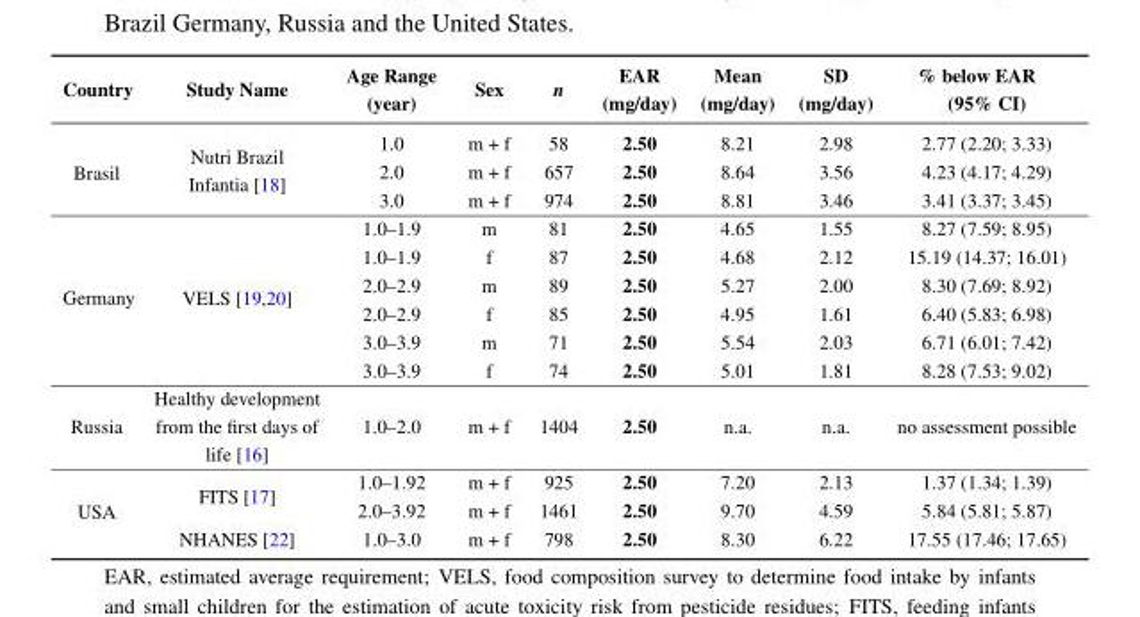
<table><thead><tr><td>Country</td><td>Study Name</td><td>Age Range (year)</td><td>Sex</td><td>n</td><td>EAR (mg/day)</td><td>Mean (mg/day)</td><td>SD (mg/day)</td><td>% below EAR (95% CI)</td></tr></thead><tbody><tr><td rowspan="3">Brasil</td><td rowspan="3">Nutri Brazil Infantia [18]</td><td>1.0</td><td>m + f</td><td>58</td><td>2.50</td><td>8.21</td><td>2.98</td><td>2.77 (2.20; 3.33)</td></tr><tr><td>2.0</td><td>m + f</td><td>657</td><td>2.50</td><td>8.64</td><td>3.56</td><td>4.23 (4.17; 4.29)</td></tr><tr><td>3.0</td><td>m + f</td><td>974</td><td>2.50</td><td>8.81</td><td>3.46</td><td>3.41 (3.37; 3.45)</td></tr><tr><td rowspan="6">Germany</td><td rowspan="6">VELS [19,20]</td><td>1.0–1.9</td><td>m</td><td>81</td><td>2.50</td><td>4.65</td><td>1.55</td><td>8.27 (7.59; 8.95)</td></tr><tr><td>1.0–1.9</td><td>f</td><td>87</td><td>2.50</td><td>4.68</td><td>2.12</td><td>15.19 (14.37; 16.01)</td></tr><tr><td>2.0–2.9</td><td>m</td><td>89</td><td>2.50</td><td>5.27</td><td>2.00</td><td>8.30 (7.69; 8.92)</td></tr><tr><td>2.0–2.9</td><td>f</td><td>85</td><td>2.50</td><td>4.95</td><td>1.61</td><td>6.40 (5.83; 6.98)</td></tr><tr><td>3.0–3.9</td><td>m</td><td>71</td><td>2.50</td><td>5.54</td><td>2.03</td><td>6.71 (6.01; 7.42)</td></tr><tr><td>3.0–3.9</td><td>f</td><td>74</td><td>2.50</td><td>5.01</td><td>1.81</td><td>8.28 (7.53; 9.02)</td></tr><tr><td>Russia</td><td>Healthy development from the first days of life [16]</td><td>1.0–2.0</td><td>m + f</td><td>1404</td><td>2.50</td><td>n.a.</td><td>n.a.</td><td>no assessment possible</td></tr><tr><td rowspan="3">USA</td><td rowspan="2">FITS [17]</td><td>1.0–1.92</td><td>m + f</td><td>925</td><td>2.50</td><td>7.20</td><td>2.13</td><td>1.37 (1.34; 1.39)</td></tr><tr><td>2.0–3.92</td><td>m + f</td><td>1461</td><td>2.50</td><td>9.70</td><td>4.59</td><td>5.84 (5.81; 5.87)</td></tr><tr><td>NHANES [22]</td><td>1.0–3.0</td><td>m + f</td><td>798</td><td>2.50</td><td>8.30</td><td>6.22</td><td>17.55 (17.46; 17.65)</td></tr></tbody></table>